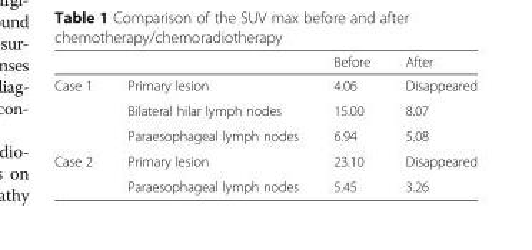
<table><thead><tr><td></td><td></td><td>Before</td><td>After</td></tr></thead><tbody><tr><td rowspan="3">Case 1</td><td>Primary lesion</td><td>4.06</td><td>Disappeared</td></tr><tr><td>Bilateral hilar lymph nodes</td><td>15.00</td><td>8.07</td></tr><tr><td>Paraesophageal lymph nodes</td><td>6.94</td><td>5.08</td></tr><tr><td rowspan="2">Case 2</td><td>Primary lesion</td><td>23.10</td><td>Disappeared</td></tr><tr><td>Paraesophageal lymph nodes</td><td>5.45</td><td>3.26</td></tr></tbody></table>